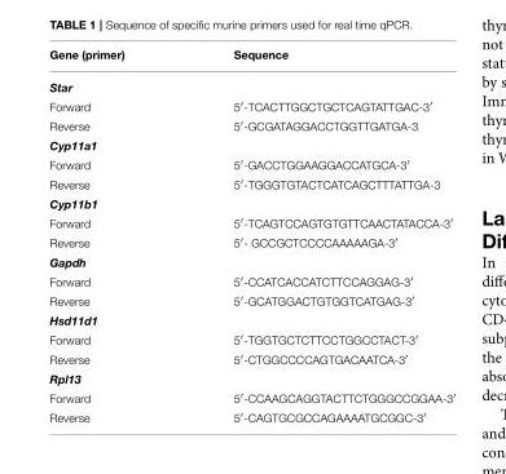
<table><thead><tr><td>Gene (primer)</td><td>Sequence</td></tr></thead><tbody><tr><td colspan="2">Star</td></tr><tr><td>Forward</td><td>5′-TCACTTGGCTGCTCAGTATTGAC-3′</td></tr><tr><td>Reverse</td><td>5′-GCGATAGGACCTGGTTGATGA-3</td></tr><tr><td colspan="2">Cyp11a1</td></tr><tr><td>Forward</td><td>5′-GACCTGGAAGGACCATGCA-3′</td></tr><tr><td>Reverse</td><td>5′-TGGGTGTACTCATCAGCTTTATTGA-3</td></tr><tr><td colspan="2">Cyp11b1</td></tr><tr><td>Forward</td><td>5′-TCAGTCCAGTGTGTTCAACTATACCA-3′</td></tr><tr><td>Reverse</td><td>5′- GCCGCTCCCCAAAAAGA-3′</td></tr><tr><td colspan="2">Gapdh</td></tr><tr><td>Forward</td><td>5′-CCATCACCATCTTCCAGGAG-3′</td></tr><tr><td>Reverse</td><td>5′-GCATGGACTGTGGTCATGAG-3′</td></tr><tr><td colspan="2">Hsd11d1</td></tr><tr><td>Forward</td><td>5′-TGGTGCTCTTCCTGGCCTACT-3′</td></tr><tr><td>Reverse</td><td>5′-CTGGCCCCAGTGACAATCA-3′</td></tr><tr><td colspan="2">Rpl13</td></tr><tr><td>Forward</td><td>5′-CCAAGCAGGTACTTCTGGGCCGGAA-3′</td></tr><tr><td>Reverse</td><td>5′-CAGTGCGCCAGAAAATGCGGC-3′</td></tr></tbody></table>